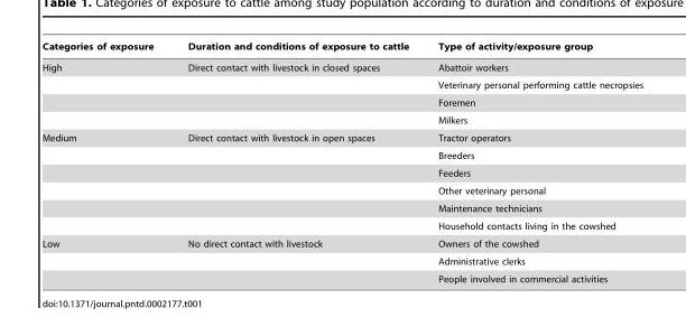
<table><thead><tr><td>Categories of exposure</td><td>Duration and conditions of exposure to cattle</td><td>Type of activity/exposure group</td></tr></thead><tbody><tr><td rowspan="4">High</td><td>Direct contact with livestock in closed spaces</td><td>Abattoir workers</td></tr><tr><td></td><td>Veterinary personal performing cattle necropsies</td></tr><tr><td></td><td>Foremen</td></tr><tr><td></td><td>Milkers</td></tr><tr><td rowspan="6">Medium</td><td>Direct contact with livestock in open spaces</td><td>Tractor operators</td></tr><tr><td></td><td>Breeders</td></tr><tr><td></td><td>Feeders</td></tr><tr><td></td><td>Other veterinary personal</td></tr><tr><td></td><td>Maintenance technicians</td></tr><tr><td></td><td>Household contacts living in the cowshed</td></tr><tr><td rowspan="3">Low</td><td>No direct contact with livestock</td><td>Owners of the cowshed</td></tr><tr><td></td><td>Administrative clerks</td></tr><tr><td></td><td>People involved in commercial activities</td></tr></tbody></table>